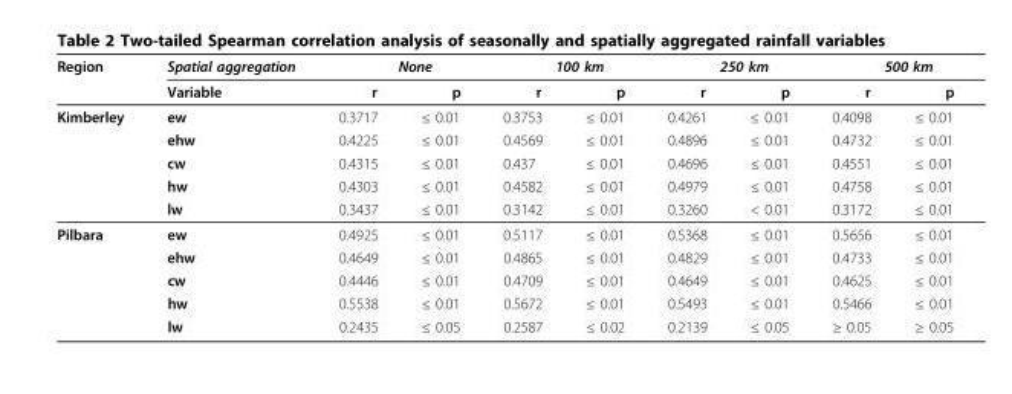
<table><thead><tr><td rowspan="2">Region</td><td rowspan="2">Spatial aggregation Variable</td><td colspan="2">None</td><td colspan="2">100 km</td><td colspan="2">250 km</td><td colspan="2">500 km</td></tr><tr><td>r</td><td>p</td><td>r</td><td>p</td><td>r</td><td>p</td><td>r</td><td>p</td></tr></thead><tbody><tr><td rowspan="5">Kimberley</td><td>ew</td><td>0.3717</td><td>≤ 0.01</td><td>0.3753</td><td>≤ 0.01</td><td>0.4261</td><td>≤ 0.01</td><td>0.4098</td><td>≤ 0.01</td></tr><tr><td>ehw</td><td>0.4225</td><td>≤ 0.01</td><td>0.4569</td><td>≤ 0.01</td><td>0.4896</td><td>≤ 0.01</td><td>0.4732</td><td>≤ 0.01</td></tr><tr><td>cw</td><td>0.4315</td><td>≤ 0.01</td><td>0.437</td><td>≤ 0.01</td><td>0.4696</td><td>≤ 0.01</td><td>0.4551</td><td>≤ 0.01</td></tr><tr><td>hw</td><td>0.4303</td><td>≤ 0.01</td><td>0.4582</td><td>≤ 0.01</td><td>0.4979</td><td>≤ 0.01</td><td>0.4758</td><td>≤ 0.01</td></tr><tr><td>lw</td><td>0.3437</td><td>≤ 0.01</td><td>0.3142</td><td>≤ 0.01</td><td>0.3260</td><td>&lt; 0.01</td><td>0.3172</td><td>≤ 0.01</td></tr><tr><td rowspan="5">Pilbara</td><td>ew</td><td>0.4925</td><td>≤ 0.01</td><td>0.5117</td><td>≤ 0.01</td><td>0.5368</td><td>≤ 0.01</td><td>0.5656</td><td>≤ 0.01</td></tr><tr><td>ehw</td><td>0.4649</td><td>≤ 0.01</td><td>0.4865</td><td>≤ 0.01</td><td>0.4829</td><td>≤ 0.01</td><td>0.4733</td><td>≤ 0.01</td></tr><tr><td>cw</td><td>0.4446</td><td>≤ 0.01</td><td>0.4709</td><td>≤ 0.01</td><td>0.4649</td><td>≤ 0.01</td><td>0.4625</td><td>≤ 0.01</td></tr><tr><td>hw</td><td>0.5538</td><td>≤ 0.01</td><td>0.5672</td><td>≤ 0.01</td><td>0.5493</td><td>≤ 0.01</td><td>0.5466</td><td>≤ 0.01</td></tr><tr><td>lw</td><td>0.2435</td><td>≤ 0.05</td><td>0.2587</td><td>≤ 0.02</td><td>0.2139</td><td>≤ 0.05</td><td>≥ 0.05</td><td>≥ 0.05</td></tr></tbody></table>